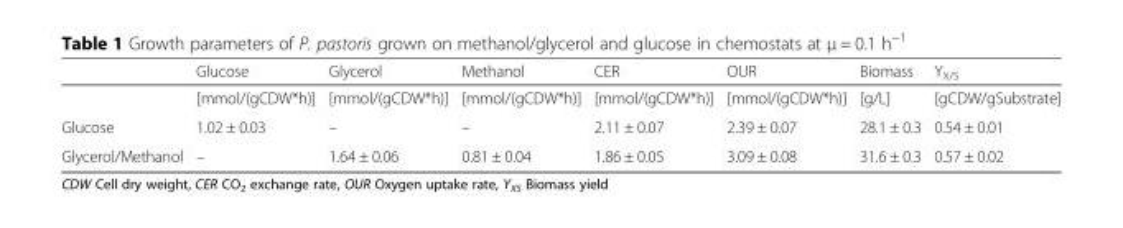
<table><thead><tr><td></td><td>Glucose</td><td>Glycerol</td><td>Methanol</td><td>CER</td><td>OUR</td><td>Biomass</td><td>Y<sub>X/S</sub></td></tr></thead><tbody><tr><td></td><td>[mmol/(gCDW*h)]</td><td>[mmol/(gCDW*h)]</td><td>[mmol/(gCDW*h)]</td><td>[mmol/(gCDW*h)]</td><td>[mmol/(gCDW*h)]</td><td>[g/L]</td><td>[gCDW/gSubstrate]</td></tr><tr><td>Glucose</td><td>1.02 ± 0.03</td><td>–</td><td>–</td><td>2.11 ± 0.07</td><td>2.39 ± 0.07</td><td>28.1 ± 0.3</td><td>0.54 ± 0.01</td></tr><tr><td>Glycerol/Methanol</td><td>–</td><td>1.64 ± 0.06</td><td>0.81 ± 0.04</td><td>1.86 ± 0.05</td><td>3.09 ± 0.08</td><td>31.6 ± 0.3</td><td>0.57 ± 0.02</td></tr></tbody></table>